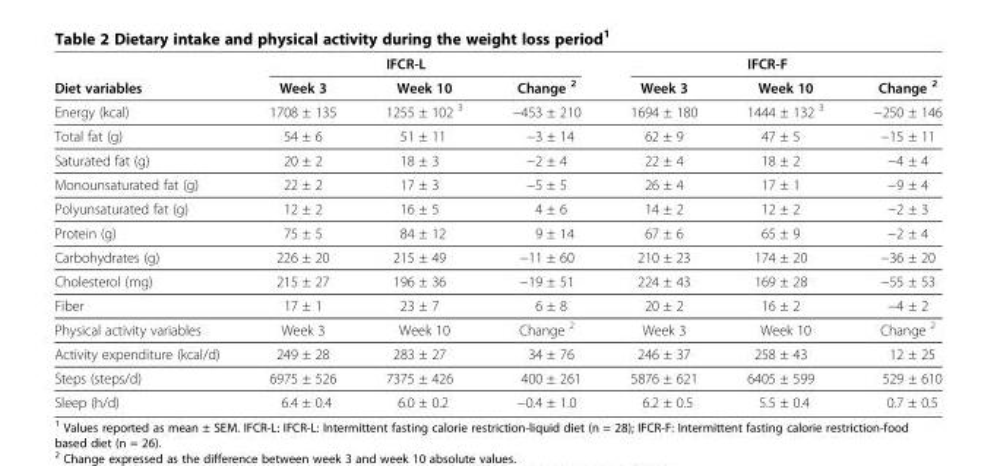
<table><thead><tr><td rowspan="2">Diet variables</td><td rowspan="2">Week 3</td><td rowspan="2">IFCR-L Week 10</td><td rowspan="2">Change 2</td><td rowspan="2">Week 3</td><td rowspan="2">IFCR-F Week 10</td><td rowspan="2">Change 2</td></tr><tr></tr></thead><tbody><tr><td>Energy (kcal)</td><td>1708 ± 135</td><td>1255 ± 102 <sup>3</sup></td><td>−453 ± 210</td><td>1694 ± 180</td><td>1444 ± 132 <sup>3</sup></td><td>−250 ± 146</td></tr><tr><td>Total fat (g)</td><td>54 ± 6</td><td>51 ± 11</td><td>−3 ± 14</td><td>62 ± 9</td><td>47 ± 5</td><td>−15 ± 11</td></tr><tr><td>Saturated fat (g)</td><td>20 ± 2</td><td>18 ± 3</td><td>−2 ± 4</td><td>22 ± 4</td><td>18 ± 2</td><td>−4 ± 4</td></tr><tr><td>Monounsaturated fat (g)</td><td>22 ± 2</td><td>17 ± 3</td><td>−5 ± 5</td><td>26 ± 4</td><td>17 ± 1</td><td>−9 ± 4</td></tr><tr><td>Polyunsaturated fat (g)</td><td>12 ± 2</td><td>16 ± 5</td><td>4 ± 6</td><td>14 ± 2</td><td>12 ± 2</td><td>−2 ± 3</td></tr><tr><td>Protein (g)</td><td>75 ± 5</td><td>84 ± 12</td><td>9 ± 14</td><td>67 ± 6</td><td>65 ± 9</td><td>−2 ± 4</td></tr><tr><td>Carbohydrates (g)</td><td>226 ± 20</td><td>215 ± 49</td><td>−11 ± 60</td><td>210 ± 23</td><td>174 ± 20</td><td>−36 ± 20</td></tr><tr><td>Cholesterol (mg)</td><td>215 ± 27</td><td>196 ± 36</td><td>−19 ± 51</td><td>224 ± 43</td><td>169 ± 28</td><td>−55 ± 53</td></tr><tr><td>Fiber</td><td>17 ± 1</td><td>23 ± 7</td><td>6 ± 8</td><td>20 ± 2</td><td>16 ± 2</td><td>−4 ± 2</td></tr><tr><td>Physical activity variables</td><td>Week 3</td><td>Week 10</td><td>Change <sup>2</sup></td><td>Week 3</td><td>Week 10</td><td>Change <sup>2</sup></td></tr><tr><td>Activity expenditure (kcal/d)</td><td>249 ± 28</td><td>283 ± 27</td><td>34 ± 76</td><td>246 ± 37</td><td>258 ± 43</td><td>12 ± 25</td></tr><tr><td>Steps (steps/d)</td><td>6975 ± 526</td><td>7375 ± 426</td><td>400 ± 261</td><td>5876 ± 621</td><td>6405 ± 599</td><td>529 ± 610</td></tr><tr><td>Sleep (h/d)</td><td>6.4 ± 0.4</td><td>6.0 ± 0.2</td><td>−0.4 ± 1.0</td><td>6.2 ± 0.5</td><td>5.5 ± 0.4</td><td>0.7 ± 0.5</td></tr></tbody></table>